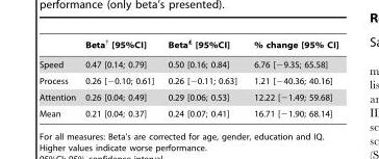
<table><thead><tr><td></td><td>Beta† [95%CI]</td><td>Beta£ [95%CI]</td><td>% change [95% CI]</td></tr></thead><tbody><tr><td>Speed</td><td>0.47 [0.14; 0.79]</td><td>0.50 [0.16; 0.84]</td><td>6.76 [−9.35; 65.58]</td></tr><tr><td>Process</td><td>0.26 [−0.10; 0.61]</td><td>0.26 [−0.11; 0.63]</td><td>1.21 [−40.36; 40.16]</td></tr><tr><td>Attention</td><td>0.26 [0.04; 0.49]</td><td>0.29 [0.06; 0.53]</td><td>12.22 [−1.49; 59.68]</td></tr><tr><td>Mean</td><td>0.21 [0.04; 0.37]</td><td>0.24 [0.07; 0.41]</td><td>16.71 [−1.90; 68.14]</td></tr></tbody></table>